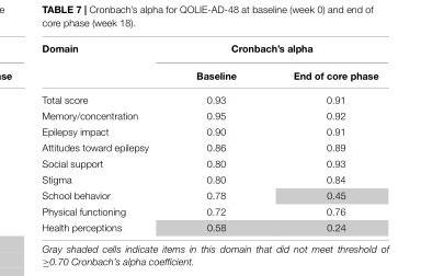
<table><thead><tr><td rowspan="2">Domain</td><td colspan="2">Cronbach’s alpha</td></tr><tr><td>Baseline</td><td>End of core phase</td></tr></thead><tbody><tr><td>Total score</td><td>0.93</td><td>0.91</td></tr><tr><td>Memory/concentration</td><td>0.95</td><td>0.92</td></tr><tr><td>Epilepsy impact</td><td>0.90</td><td>0.91</td></tr><tr><td>Attitudes toward epilepsy</td><td>0.86</td><td>0.89</td></tr><tr><td>Social support</td><td>0.80</td><td>0.93</td></tr><tr><td>Stigma</td><td>0.80</td><td>0.84</td></tr><tr><td>School behavior</td><td>0.78</td><td>0.45</td></tr><tr><td>Physical functioning</td><td>0.72</td><td>0.76</td></tr><tr><td>Health perceptions</td><td>0.58</td><td>0.24</td></tr></tbody></table>